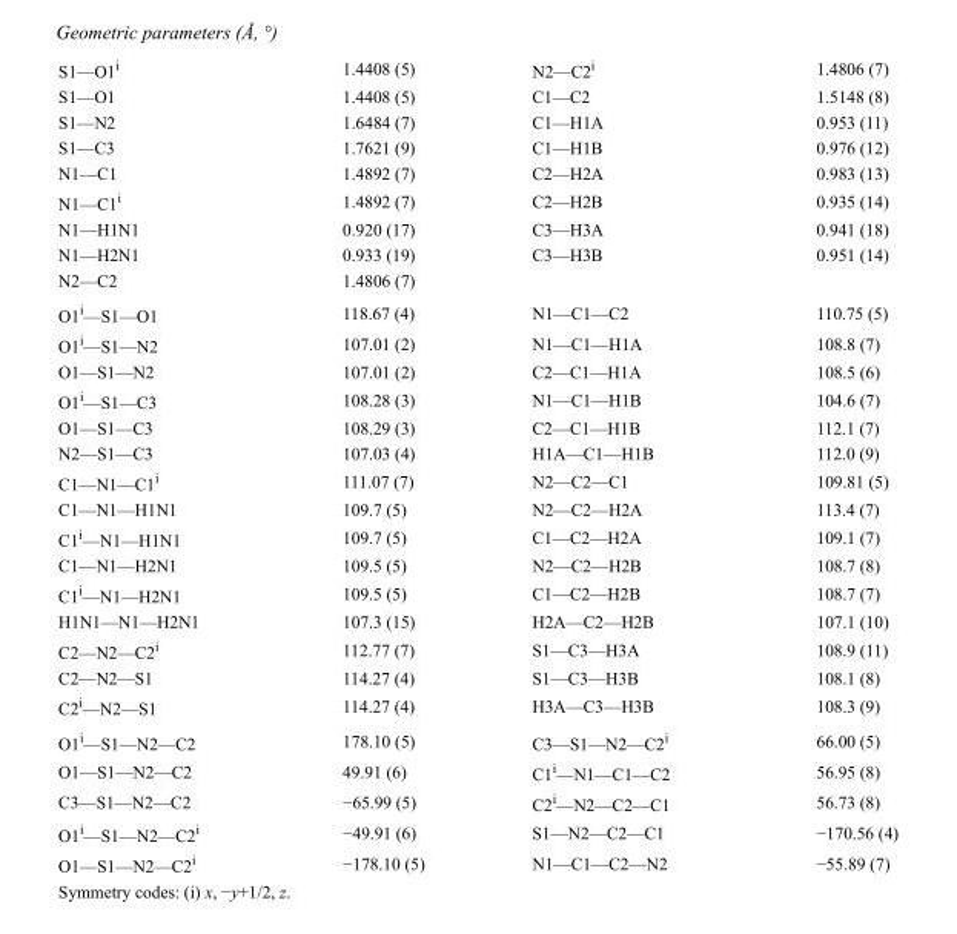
<table><tbody><tr><td>S1—O1<sup>i</sup></td><td>1.4408 (5)</td><td>N2—C2<sup>i</sup></td><td>1.4806 (7)</td></tr><tr><td>S1—O1</td><td>1.4408 (5)</td><td>C1—C2</td><td>1.5148 (8)</td></tr><tr><td>S1—N2</td><td>1.6484 (7)</td><td>C1—H1A</td><td>0.953 (11)</td></tr><tr><td>S1—C3</td><td>1.7621 (9)</td><td>C1—H1B</td><td>0.976 (12)</td></tr><tr><td>N1—C1</td><td>1.4892 (7)</td><td>C2—H2A</td><td>0.983 (13)</td></tr><tr><td>N1—C1<sup>i</sup></td><td>1.4892 (7)</td><td>C2—H2B</td><td>0.935 (14)</td></tr><tr><td>N1—H1N1</td><td>0.920 (17)</td><td>C3—H3A</td><td>0.941 (18)</td></tr><tr><td>N1—H2N1</td><td>0.933 (19)</td><td>C3—H3B</td><td>0.951 (14)</td></tr><tr><td>N2—C2</td><td>1.4806 (7)</td><td></td><td></td></tr><tr><td>O1<sup>i</sup>—S1—O1</td><td>118.67 (4)</td><td>N1—C1—C2</td><td>110.75 (5)</td></tr><tr><td>O1<sup>i</sup>—S1—N2</td><td>107.01 (2)</td><td>N1—C1—H1A</td><td>108.8 (7)</td></tr><tr><td>O1—S1—N2</td><td>107.01 (2)</td><td>C2—C1—H1A</td><td>108.5 (6)</td></tr><tr><td>O1<sup>i</sup>—S1—C3</td><td>108.28 (3)</td><td>N1—C1—H1B</td><td>104.6 (7)</td></tr><tr><td>O1—S1—C3</td><td>108.29 (3)</td><td>C2—C1—H1B</td><td>112.1 (7)</td></tr><tr><td>N2—S1—C3</td><td>107.03 (4)</td><td>H1A—C1—H1B</td><td>112.0 (9)</td></tr><tr><td>C1—N1—C1<sup>i</sup></td><td>111.07 (7)</td><td>N2—C2—C1</td><td>109.81 (5)</td></tr><tr><td>C1—N1—H1N1</td><td>109.7 (5)</td><td>N2—C2—H2A</td><td>113.4 (7)</td></tr><tr><td>C1<sup>i</sup>—N1—H1N1</td><td>109.7 (5)</td><td>C1—C2—H2A</td><td>109.1 (7)</td></tr><tr><td>C1—N1—H2N1</td><td>109.5 (5)</td><td>N2—C2—H2B</td><td>108.7 (8)</td></tr><tr><td>C1<sup>i</sup>—N1—H2N1</td><td>109.5 (5)</td><td>C1—C2—H2B</td><td>108.7 (7)</td></tr><tr><td>H1N1—N1—H2N1</td><td>107.3 (15)</td><td>H2A—C2—H2B</td><td>107.1 (10)</td></tr><tr><td>C2—N2—C2<sup>i</sup></td><td>112.77 (7)</td><td>S1—C3—H3A</td><td>108.9 (11)</td></tr><tr><td>C2—N2—S1</td><td>114.27 (4)</td><td>S1—C3—H3B</td><td>108.1 (8)</td></tr><tr><td>C2<sup>i</sup>—N2—S1</td><td>114.27 (4)</td><td>H3A—C3—H3B</td><td>108.3 (9)</td></tr><tr><td>O1<sup>i</sup>—S1—N2—C2</td><td>178.10 (5)</td><td>C3—S1—N2—C2<sup>i</sup></td><td>66.00 (5)</td></tr><tr><td>O1—S1—N2—C2</td><td>49.91 (6)</td><td>C1<sup>i</sup>—N1—C1—C2</td><td>56.95 (8)</td></tr><tr><td>C3—S1—N2—C2</td><td>−65.99 (5)</td><td>C2<sup>i</sup>—N2—C2—C1</td><td>56.73 (8)</td></tr><tr><td>O1<sup>i</sup>—S1—N2—C2<sup>i</sup></td><td>−49.91 (6)</td><td>S1—N2—C2—C1</td><td>−170.56 (4)</td></tr><tr><td>O1—S1—N2—C2<sup>i</sup></td><td>−178.10 (5)</td><td>N1—C1—C2—N2</td><td>−55.89 (7)</td></tr></tbody></table>